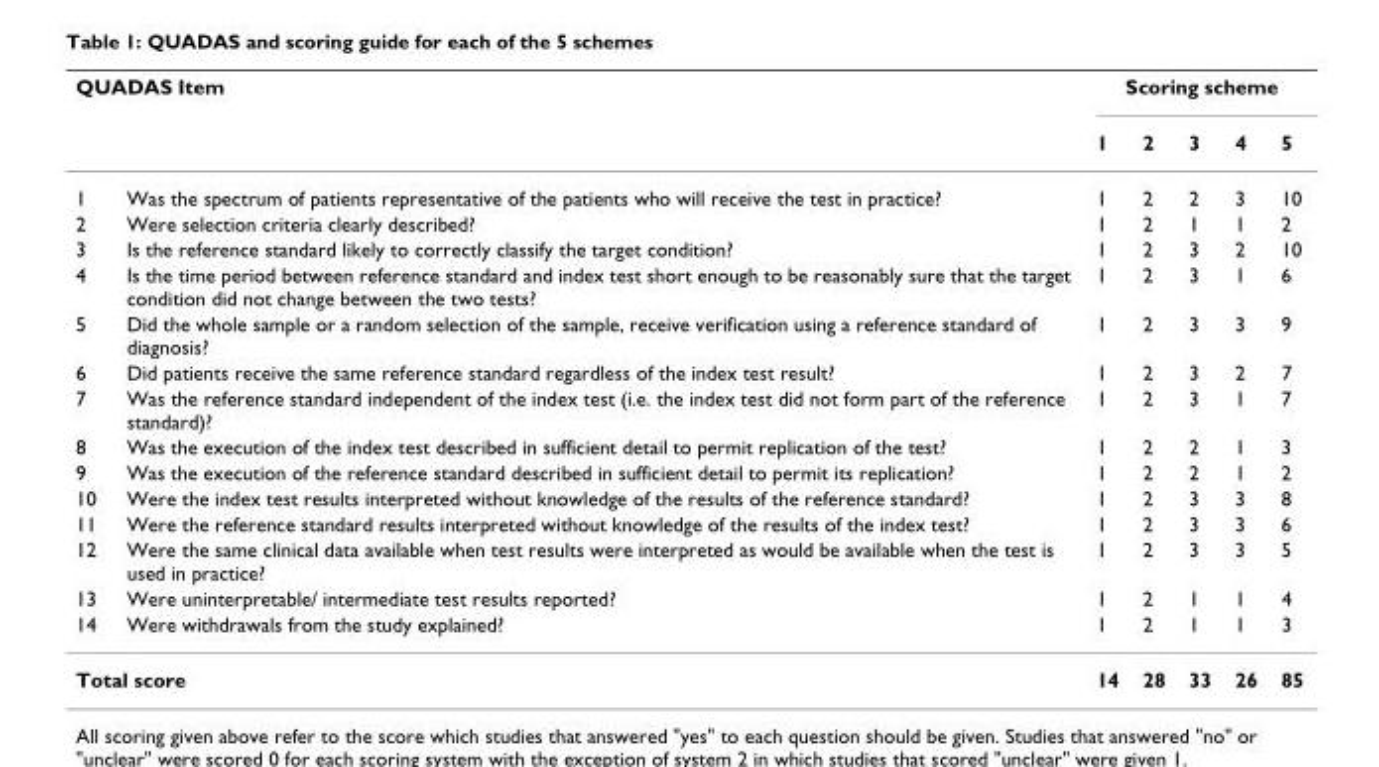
<table><thead><tr><td colspan="2">QUADAS Item</td><td colspan="5">Scoring scheme</td></tr><tr><td></td><td></td><td>1</td><td>2</td><td>3</td><td>4</td><td>5</td></tr></thead><tbody><tr><td>1</td><td>Was the spectrum of patients representative of the patients who will receive the test in practice?</td><td>1</td><td>2</td><td>2</td><td>3</td><td>10</td></tr><tr><td>2</td><td>Were selection criteria clearly described?</td><td>1</td><td>2</td><td>1</td><td>1</td><td>2</td></tr><tr><td>3</td><td>Is the reference standard likely to correctly classify the target condition?</td><td>1</td><td>2</td><td>3</td><td>2</td><td>10</td></tr><tr><td>4</td><td>Is the time period between reference standard and index test short enough to be reasonably sure that the target condition did not change between the two tests?</td><td>1</td><td>2</td><td>3</td><td>1</td><td>6</td></tr><tr><td>5</td><td>Did the whole sample or a random selection of the sample, receive verification using a reference standard of diagnosis?</td><td>1</td><td>2</td><td>3</td><td>3</td><td>9</td></tr><tr><td>6</td><td>Did patients receive the same reference standard regardless of the index test result?</td><td>1</td><td>2</td><td>3</td><td>2</td><td>7</td></tr><tr><td>7</td><td>Was the reference standard independent of the index test (i.e. the index test did not form part of the reference standard)?</td><td>1</td><td>2</td><td>3</td><td>1</td><td>7</td></tr><tr><td>8</td><td>Was the execution of the index test described in sufficient detail to permit replication of the test?</td><td>1</td><td>2</td><td>2</td><td>1</td><td>3</td></tr><tr><td>9</td><td>Was the execution of the reference standard described in sufficient detail to permit its replication?</td><td>1</td><td>2</td><td>2</td><td>1</td><td>2</td></tr><tr><td>10</td><td>Were the index test results interpreted without knowledge of the results of the reference standard?</td><td>1</td><td>2</td><td>3</td><td>3</td><td>8</td></tr><tr><td>11</td><td>Were the reference standard results interpreted without knowledge of the results of the index test?</td><td>1</td><td>2</td><td>3</td><td>3</td><td>6</td></tr><tr><td>12</td><td>Were the same clinical data available when test results were interpreted as would be available when the test is used in practice?</td><td>1</td><td>2</td><td>3</td><td>3</td><td>5</td></tr><tr><td>13</td><td>Were uninterpretable/ intermediate test results reported?</td><td>1</td><td>2</td><td>1</td><td>1</td><td>4</td></tr><tr><td>14</td><td>Were withdrawals from the study explained?</td><td>1</td><td>2</td><td>1</td><td>1</td><td>3</td></tr><tr><td colspan="2">Total score</td><td>14</td><td>28</td><td>33</td><td>26</td><td>85</td></tr></tbody></table>